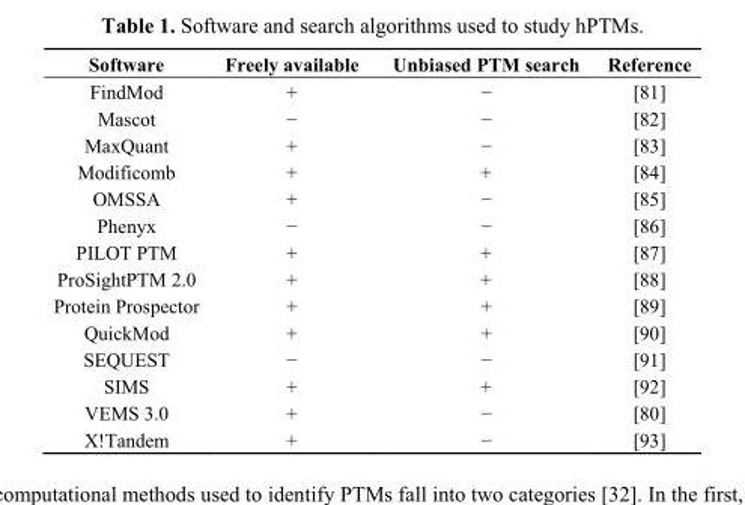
<table><thead><tr><td>Software</td><td>Freely available</td><td>Unbiased PTM search</td><td>Reference</td></tr></thead><tbody><tr><td>FindMod</td><td>+</td><td>−</td><td>[81]</td></tr><tr><td>Mascot</td><td>−</td><td>−</td><td>[82]</td></tr><tr><td>MaxQuant</td><td>+</td><td>−</td><td>[83]</td></tr><tr><td>Modificomb</td><td>+</td><td>+</td><td>[84]</td></tr><tr><td>OMSSA</td><td>+</td><td>−</td><td>[85]</td></tr><tr><td>Phenyx</td><td>−</td><td>−</td><td>[86]</td></tr><tr><td>PILOT PTM</td><td>+</td><td>+</td><td>[87]</td></tr><tr><td>ProSightPTM 2.0</td><td>+</td><td>+</td><td>[88]</td></tr><tr><td>Protein Prospector</td><td>+</td><td>+</td><td>[89]</td></tr><tr><td>QuickMod</td><td>+</td><td>+</td><td>[90]</td></tr><tr><td>SEQUEST</td><td>−</td><td>−</td><td>[91]</td></tr><tr><td>SIMS</td><td>+</td><td>+</td><td>[92]</td></tr><tr><td>VEMS 3.0</td><td>+</td><td>−</td><td>[80]</td></tr><tr><td>X!Tandem</td><td>+</td><td>−</td><td>[93]</td></tr></tbody></table>